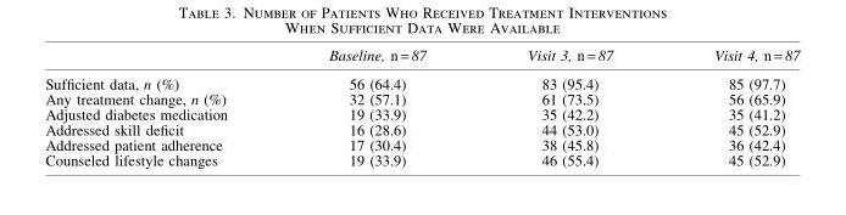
<table><thead><tr><td></td><td>Baseline, n = 87</td><td>Visit 3, n = 87</td><td>Visit 4, n = 87</td></tr></thead><tbody><tr><td>Sufficient data, n (%)</td><td>56 (64.4)</td><td>83 (95.4)</td><td>85 (97.7)</td></tr><tr><td>Any treatment change, n (%)</td><td>32 (57.1)</td><td>61 (73.5)</td><td>56 (65.9)</td></tr><tr><td>Adjusted diabetes medication</td><td>19 (33.9)</td><td>35 (42.2)</td><td>35 (41.2)</td></tr><tr><td>Addressed skill deficit</td><td>16 (28.6)</td><td>44 (53.0)</td><td>45 (52.9)</td></tr><tr><td>Addressed patient adherence</td><td>17 (30.4)</td><td>38 (45.8)</td><td>36 (42.4)</td></tr><tr><td>Counseled lifestyle changes</td><td>19 (33.9)</td><td>46 (55.4)</td><td>45 (52.9)</td></tr></tbody></table>